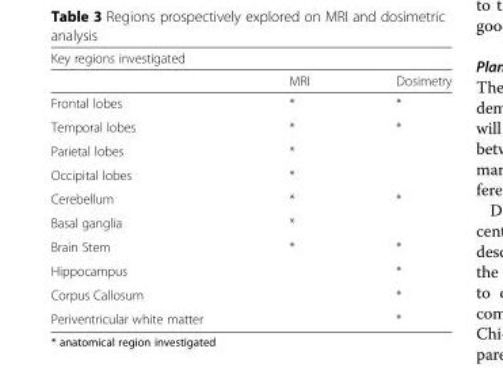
<table><thead><tr><td colspan="3">Key regions investigated</td></tr><tr><td></td><td>MRI</td><td>Dosimetry</td></tr></thead><tbody><tr><td>Frontal lobes</td><td>*</td><td>*</td></tr><tr><td>Temporal lobes</td><td>*</td><td>*</td></tr><tr><td>Parietal lobes</td><td>*</td><td></td></tr><tr><td>Occipital lobes</td><td>*</td><td></td></tr><tr><td>Cerebellum</td><td>*</td><td>*</td></tr><tr><td>Basal ganglia</td><td>*</td><td></td></tr><tr><td>Brain Stem</td><td>*</td><td>*</td></tr><tr><td>Hippocampus</td><td></td><td>*</td></tr><tr><td>Corpus Callosum</td><td></td><td>*</td></tr><tr><td>Periventricular white matter</td><td></td><td>*</td></tr></tbody></table>